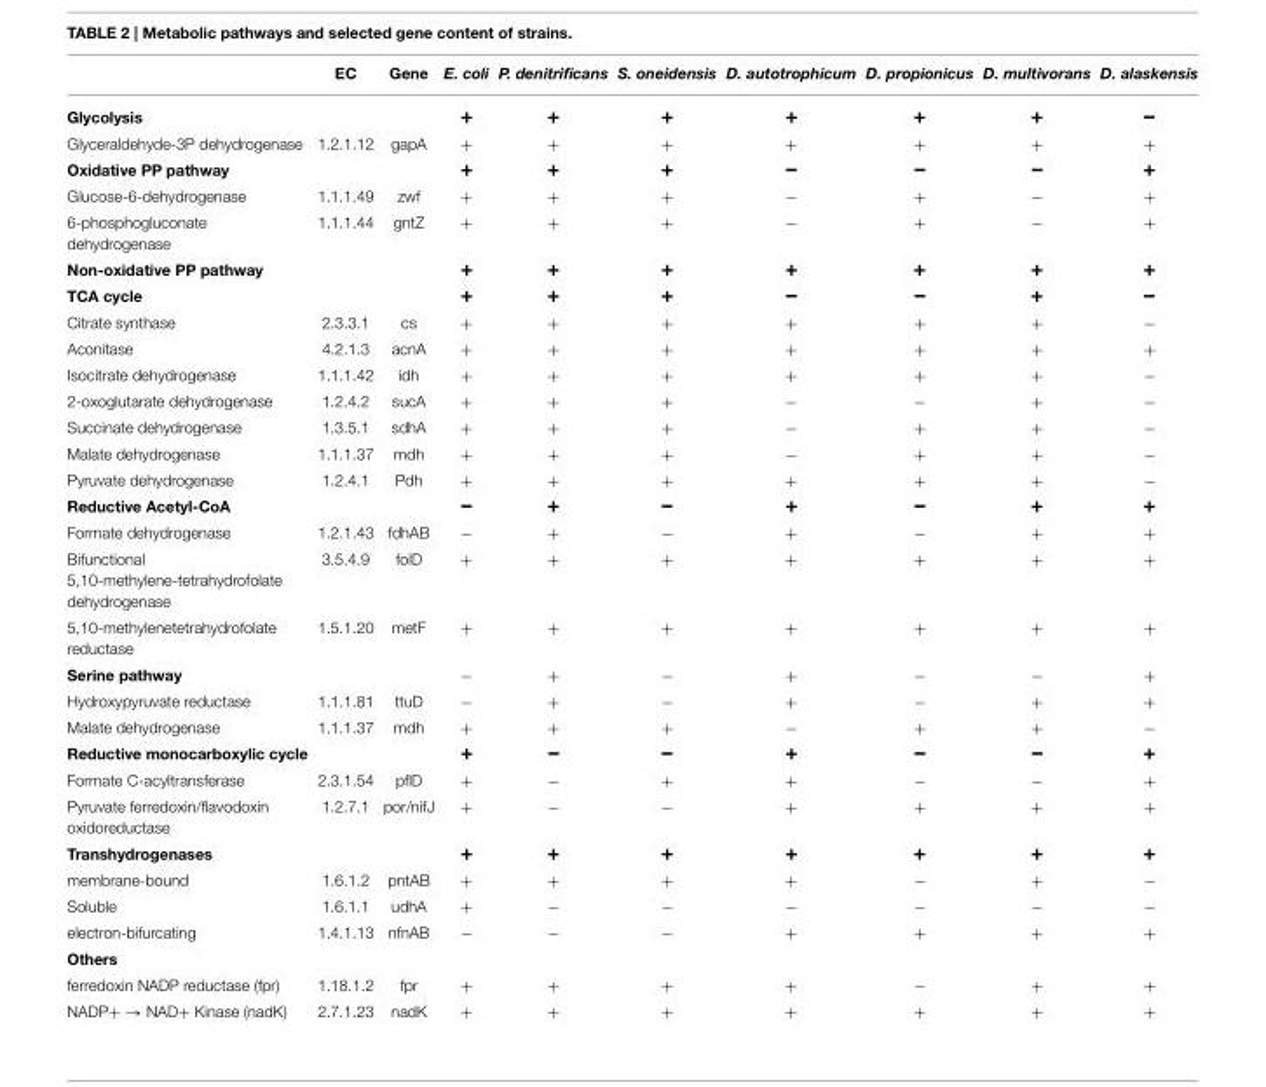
<table><thead><tr><td></td><td>EC</td><td>Gene</td><td>E. coli</td><td>P. denitrificans</td><td>S. oneidensis</td><td>D. autotrophicum</td><td>D. propionicus</td><td>D. multivorans</td><td>D. alaskensis</td></tr></thead><tbody><tr><td>Glycolysis</td><td></td><td></td><td>+</td><td>+</td><td>+</td><td>+</td><td>+</td><td>+</td><td>–</td></tr><tr><td>Glyceraldehyde-3P dehydrogenase</td><td>1.2.1.12</td><td>gapA</td><td>+</td><td>+</td><td>+</td><td>+</td><td>+</td><td>+</td><td>+</td></tr><tr><td>Oxidative PP pathway</td><td></td><td></td><td>+</td><td>+</td><td>+</td><td>–</td><td>–</td><td>–</td><td>+</td></tr><tr><td>Glucose-6-dehydrogenase</td><td>1.1.1.49</td><td>zwf</td><td>+</td><td>+</td><td>+</td><td>−</td><td>+</td><td>−</td><td>+</td></tr><tr><td>6-phosphogluconate dehydrogenase</td><td>1.1.1.44</td><td>gntZ</td><td>+</td><td>+</td><td>+</td><td>−</td><td>+</td><td>−</td><td>+</td></tr><tr><td>Non-oxidative PP pathway</td><td></td><td></td><td>+</td><td>+</td><td>+</td><td>+</td><td>+</td><td>+</td><td>+</td></tr><tr><td>TCA cycle</td><td></td><td></td><td>+</td><td>+</td><td>+</td><td>–</td><td>–</td><td>+</td><td>–</td></tr><tr><td>Citrate synthase</td><td>2.3.3.1</td><td>cs</td><td>+</td><td>+</td><td>+</td><td>+</td><td>+</td><td>+</td><td>−</td></tr><tr><td>Aconitase</td><td>4.2.1.3</td><td>acnA</td><td>+</td><td>+</td><td>+</td><td>+</td><td>+</td><td>+</td><td>+</td></tr><tr><td>Isocitrate dehydrogenase</td><td>1.1.1.42</td><td>idh</td><td>+</td><td>+</td><td>+</td><td>+</td><td>+</td><td>+</td><td>−</td></tr><tr><td>2-oxoglutarate dehydrogenase</td><td>1.2.4.2</td><td>sucA</td><td>+</td><td>+</td><td>+</td><td>−</td><td>−</td><td>+</td><td>−</td></tr><tr><td>Succinate dehydrogenase</td><td>1.3.5.1</td><td>sdhA</td><td>+</td><td>+</td><td>+</td><td>−</td><td>+</td><td>+</td><td>−</td></tr><tr><td>Malate dehydrogenase</td><td>1.1.1.37</td><td>mdh</td><td>+</td><td>+</td><td>+</td><td>−</td><td>+</td><td>+</td><td>−</td></tr><tr><td>Pyruvate dehydrogenase</td><td>1.2.4.1</td><td>Pdh</td><td>+</td><td>+</td><td>+</td><td>+</td><td>+</td><td>+</td><td>−</td></tr><tr><td>Reductive Acetyl-CoA</td><td></td><td></td><td>–</td><td>+</td><td>–</td><td>+</td><td>–</td><td>+</td><td>+</td></tr><tr><td>Formate dehydrogenase</td><td>1.2.1.43</td><td>fdhAB</td><td>−</td><td>+</td><td>−</td><td>+</td><td>−</td><td>+</td><td>+</td></tr><tr><td>Bifunctional 5,10-methylene-tetrahydrofolate dehydrogenase</td><td>3.5.4.9</td><td>folD</td><td>+</td><td>+</td><td>+</td><td>+</td><td>+</td><td>+</td><td>+</td></tr><tr><td>5,10-methylenetetrahydrofolate reductase</td><td>1.5.1.20</td><td>metF</td><td>+</td><td>+</td><td>+</td><td>+</td><td>+</td><td>+</td><td>+</td></tr><tr><td>Serine pathway</td><td></td><td></td><td>−</td><td>+</td><td>−</td><td>+</td><td>−</td><td>−</td><td>+</td></tr><tr><td>Hydroxypyruvate reductase</td><td>1.1.1.81</td><td>ttuD</td><td>−</td><td>+</td><td>−</td><td>+</td><td>−</td><td>+</td><td>+</td></tr><tr><td>Malate dehydrogenase</td><td>1.1.1.37</td><td>mdh</td><td>+</td><td>+</td><td>+</td><td>−</td><td>+</td><td>+</td><td>−</td></tr><tr><td>Reductive monocarboxylic cycle</td><td></td><td></td><td>+</td><td>–</td><td>–</td><td>+</td><td>–</td><td>–</td><td>+</td></tr><tr><td>Formate C-acyltransferase</td><td>2.3.1.54</td><td>pflD</td><td>+</td><td>−</td><td>+</td><td>+</td><td>−</td><td>−</td><td>+</td></tr><tr><td>Pyruvate ferredoxin/flavodoxin oxidoreductase</td><td>1.2.7.1</td><td>por/nifJ</td><td>+</td><td>−</td><td>−</td><td>+</td><td>+</td><td>+</td><td>+</td></tr><tr><td>Transhydrogenases</td><td></td><td></td><td>+</td><td>+</td><td>+</td><td>+</td><td>+</td><td>+</td><td>+</td></tr><tr><td>membrane-bound</td><td>1.6.1.2</td><td>pntAB</td><td>+</td><td>+</td><td>+</td><td>+</td><td>−</td><td>+</td><td>−</td></tr><tr><td>Soluble</td><td>1.6.1.1</td><td>udhA</td><td>+</td><td>−</td><td>−</td><td>−</td><td>−</td><td>−</td><td>−</td></tr><tr><td>electron-bifurcating</td><td>1.4.1.13</td><td>nfnAB</td><td>−</td><td>−</td><td>−</td><td>+</td><td>+</td><td>+</td><td>+</td></tr><tr><td colspan="10">Others</td></tr><tr><td>ferredoxin NADP reductase (fpr)</td><td>1.18.1.2</td><td>fpr</td><td>+</td><td>+</td><td>+</td><td>+</td><td>−</td><td>+</td><td>+</td></tr><tr><td>NADP+ → NAD+ Kinase (nadK)</td><td>2.7.1.23</td><td>nadK</td><td>+</td><td>+</td><td>+</td><td>+</td><td>+</td><td>+</td><td>+</td></tr></tbody></table>